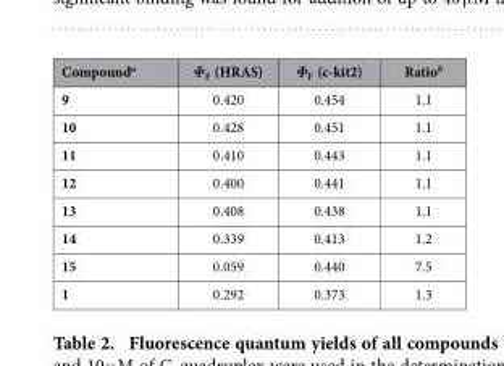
<table><thead><tr><td>Compound<sup>a</sup></td><td>Φ<sub>F</sub> (HRAS)</td><td>Φ<sub>F</sub> (c-kit2)</td><td>Ratio<sup>b</sup></td></tr></thead><tbody><tr><td>9</td><td>0.420</td><td>0.454</td><td>1.1</td></tr><tr><td>10</td><td>0.428</td><td>0.451</td><td>1.1</td></tr><tr><td>11</td><td>0.410</td><td>0.443</td><td>1.1</td></tr><tr><td>12</td><td>0.400</td><td>0.441</td><td>1.1</td></tr><tr><td>13</td><td>0.408</td><td>0.438</td><td>1.1</td></tr><tr><td>14</td><td>0.339</td><td>0.413</td><td>1.2</td></tr><tr><td>15</td><td>0.059</td><td>0.440</td><td>7.5</td></tr><tr><td>1</td><td>0.292</td><td>0.373</td><td>1.3</td></tr></tbody></table>